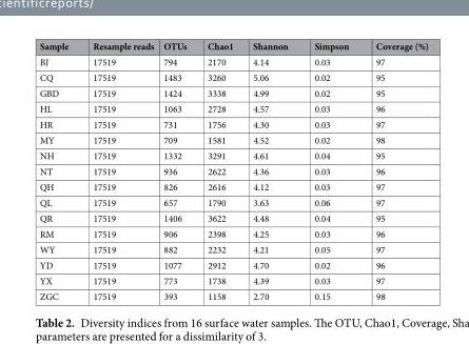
<table><thead><tr><td>Sample</td><td>Resample reads</td><td>OTUs</td><td>Chao1</td><td>Shannon</td><td>Simpson</td><td>Coverage (%)</td></tr></thead><tbody><tr><td>BJ</td><td>17519</td><td>794</td><td>2170</td><td>4.14</td><td>0.03</td><td>97</td></tr><tr><td>CQ</td><td>17519</td><td>1483</td><td>3260</td><td>5.06</td><td>0.02</td><td>95</td></tr><tr><td>GBD</td><td>17519</td><td>1424</td><td>3338</td><td>4.99</td><td>0.02</td><td>95</td></tr><tr><td>HL</td><td>17519</td><td>1063</td><td>2728</td><td>4.57</td><td>0.03</td><td>96</td></tr><tr><td>HR</td><td>17519</td><td>731</td><td>1756</td><td>4.30</td><td>0.03</td><td>97</td></tr><tr><td>MY</td><td>17519</td><td>709</td><td>1581</td><td>4.52</td><td>0.02</td><td>98</td></tr><tr><td>NH</td><td>17519</td><td>1332</td><td>3291</td><td>4.61</td><td>0.04</td><td>95</td></tr><tr><td>NT</td><td>17519</td><td>936</td><td>2622</td><td>4.36</td><td>0.03</td><td>96</td></tr><tr><td>QH</td><td>17519</td><td>826</td><td>2616</td><td>4.12</td><td>0.03</td><td>97</td></tr><tr><td>QL</td><td>17519</td><td>657</td><td>1790</td><td>3.63</td><td>0.06</td><td>97</td></tr><tr><td>QR</td><td>17519</td><td>1406</td><td>3622</td><td>4.48</td><td>0.04</td><td>95</td></tr><tr><td>RM</td><td>17519</td><td>906</td><td>2398</td><td>4.25</td><td>0.03</td><td>96</td></tr><tr><td>WY</td><td>17519</td><td>882</td><td>2232</td><td>4.21</td><td>0.05</td><td>97</td></tr><tr><td>YD</td><td>17519</td><td>1077</td><td>2912</td><td>4.70</td><td>0.02</td><td>96</td></tr><tr><td>YX</td><td>17519</td><td>773</td><td>1738</td><td>4.39</td><td>0.03</td><td>97</td></tr><tr><td>ZGC</td><td>17519</td><td>393</td><td>1158</td><td>2.70</td><td>0.15</td><td>98</td></tr></tbody></table>